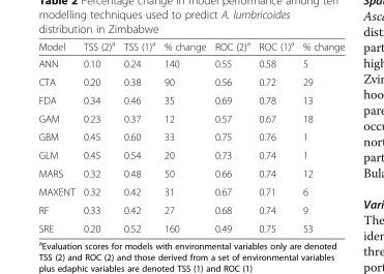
<table><thead><tr><td>Model</td><td>TSS (2)<sup>a</sup></td><td>TSS (1)<sup>a</sup></td><td>% change</td><td>ROC (2)<sup>a</sup></td><td>ROC (1)<sup>a</sup></td><td>% change</td></tr></thead><tbody><tr><td>ANN</td><td>0.10</td><td>0.24</td><td>140</td><td>0.55</td><td>0.58</td><td>5</td></tr><tr><td>CTA</td><td>0.20</td><td>0.38</td><td>90</td><td>0.56</td><td>0.72</td><td>29</td></tr><tr><td>FDA</td><td>0.34</td><td>0.46</td><td>35</td><td>0.69</td><td>0.78</td><td>13</td></tr><tr><td>GAM</td><td>0.23</td><td>0.37</td><td>12</td><td>0.57</td><td>0.67</td><td>18</td></tr><tr><td>GBM</td><td>0.45</td><td>0.60</td><td>33</td><td>0.75</td><td>0.76</td><td>1</td></tr><tr><td>GLM</td><td>0.45</td><td>0.54</td><td>20</td><td>0.73</td><td>0.74</td><td>1</td></tr><tr><td>MARS</td><td>0.32</td><td>0.48</td><td>50</td><td>0.66</td><td>0.74</td><td>12</td></tr><tr><td>MAXENT</td><td>0.32</td><td>0.42</td><td>31</td><td>0.67</td><td>0.71</td><td>6</td></tr><tr><td>RF</td><td>0.33</td><td>0.42</td><td>27</td><td>0.68</td><td>0.74</td><td>9</td></tr><tr><td>SRE</td><td>0.20</td><td>0.52</td><td>160</td><td>0.49</td><td>0.75</td><td>53</td></tr></tbody></table>